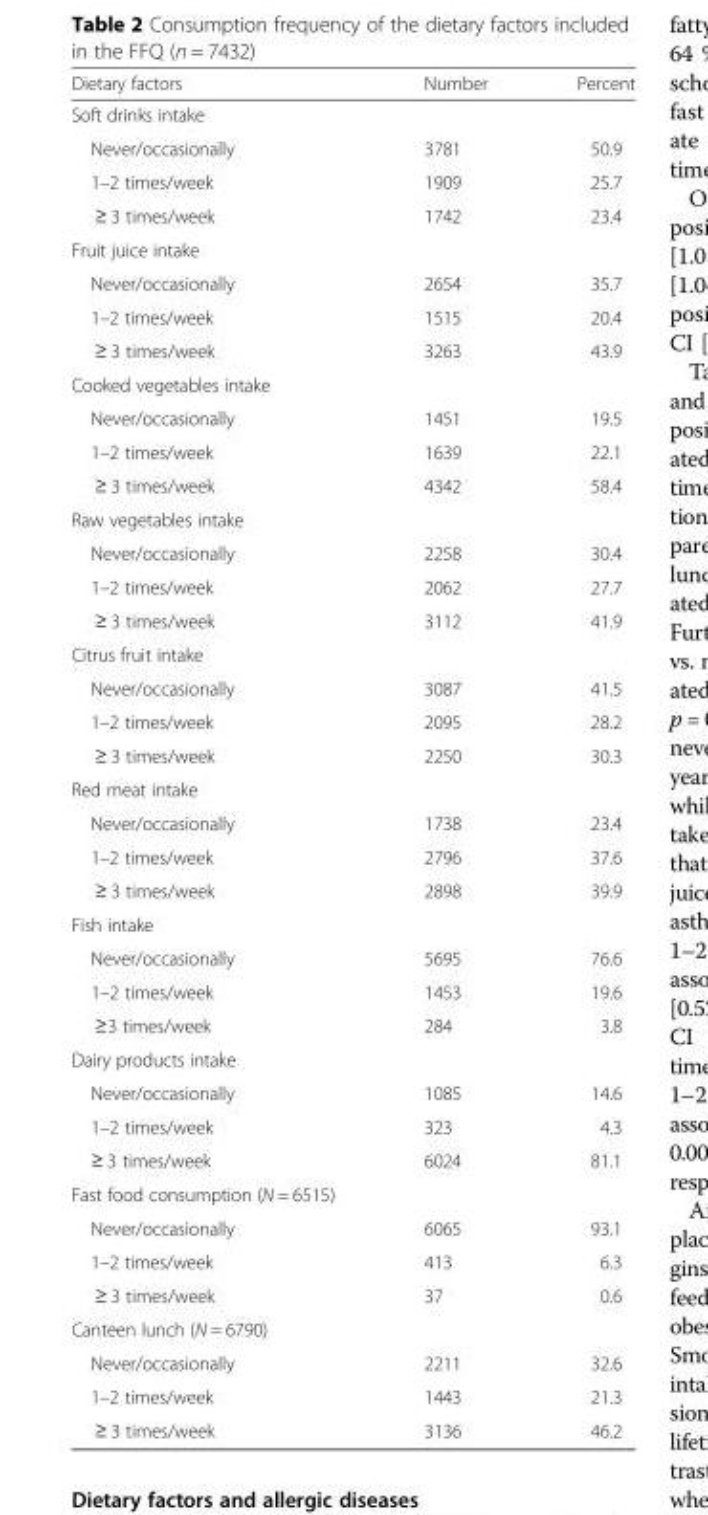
<table><thead><tr><td>Dietary factors</td><td>Number</td><td>Percent</td></tr></thead><tbody><tr><td colspan="3">Soft drinks intake</td></tr><tr><td>Never/occasionally</td><td>3781</td><td>50.9</td></tr><tr><td>1–2 times/week</td><td>1909</td><td>25.7</td></tr><tr><td>≥ 3 times/week</td><td>1742</td><td>23.4</td></tr><tr><td colspan="3">Fruit juice intake</td></tr><tr><td>Never/occasionally</td><td>2654</td><td>35.7</td></tr><tr><td>1–2 times/week</td><td>1515</td><td>20.4</td></tr><tr><td>≥ 3 times/week</td><td>3263</td><td>43.9</td></tr><tr><td colspan="3">Cooked vegetables intake</td></tr><tr><td>Never/occasionally</td><td>1451</td><td>19.5</td></tr><tr><td>1–2 times/week</td><td>1639</td><td>22.1</td></tr><tr><td>≥ 3 times/week</td><td>4342</td><td>58.4</td></tr><tr><td colspan="3">Raw vegetables intake</td></tr><tr><td>Never/occasionally</td><td>2258</td><td>30.4</td></tr><tr><td>1–2 times/week</td><td>2062</td><td>27.7</td></tr><tr><td>≥ 3 times/week</td><td>3112</td><td>41.9</td></tr><tr><td colspan="3">Citrus fruit intake</td></tr><tr><td>Never/occasionally</td><td>3087</td><td>41.5</td></tr><tr><td>1–2 times/week</td><td>2095</td><td>28.2</td></tr><tr><td>≥ 3 times/week</td><td>2250</td><td>30.3</td></tr><tr><td colspan="3">Red meat intake</td></tr><tr><td>Never/occasionally</td><td>1738</td><td>23.4</td></tr><tr><td>1–2 times/week</td><td>2796</td><td>37.6</td></tr><tr><td>≥ 3 times/week</td><td>2898</td><td>39.9</td></tr><tr><td colspan="3">Fish intake</td></tr><tr><td>Never/occasionally</td><td>5695</td><td>76.6</td></tr><tr><td>1–2 times/week</td><td>1453</td><td>19.6</td></tr><tr><td>≥3 times/week</td><td>284</td><td>3.8</td></tr><tr><td colspan="3">Dairy products intake</td></tr><tr><td>Never/occasionally</td><td>1085</td><td>14.6</td></tr><tr><td>1–2 times/week</td><td>323</td><td>4.3</td></tr><tr><td>≥ 3 times/week</td><td>6024</td><td>81.1</td></tr><tr><td colspan="3">Fast food consumption (N = 6515)</td></tr><tr><td>Never/occasionally</td><td>6065</td><td>93.1</td></tr><tr><td>1–2 times/week</td><td>413</td><td>6.3</td></tr><tr><td>≥ 3 times/week</td><td>37</td><td>0.6</td></tr><tr><td colspan="3">Canteen lunch (N = 6790)</td></tr><tr><td>Never/occasionally</td><td>2211</td><td>32.6</td></tr><tr><td>1–2 times/week</td><td>1443</td><td>21.3</td></tr><tr><td>≥ 3 times/week</td><td>3136</td><td>46.2</td></tr></tbody></table>